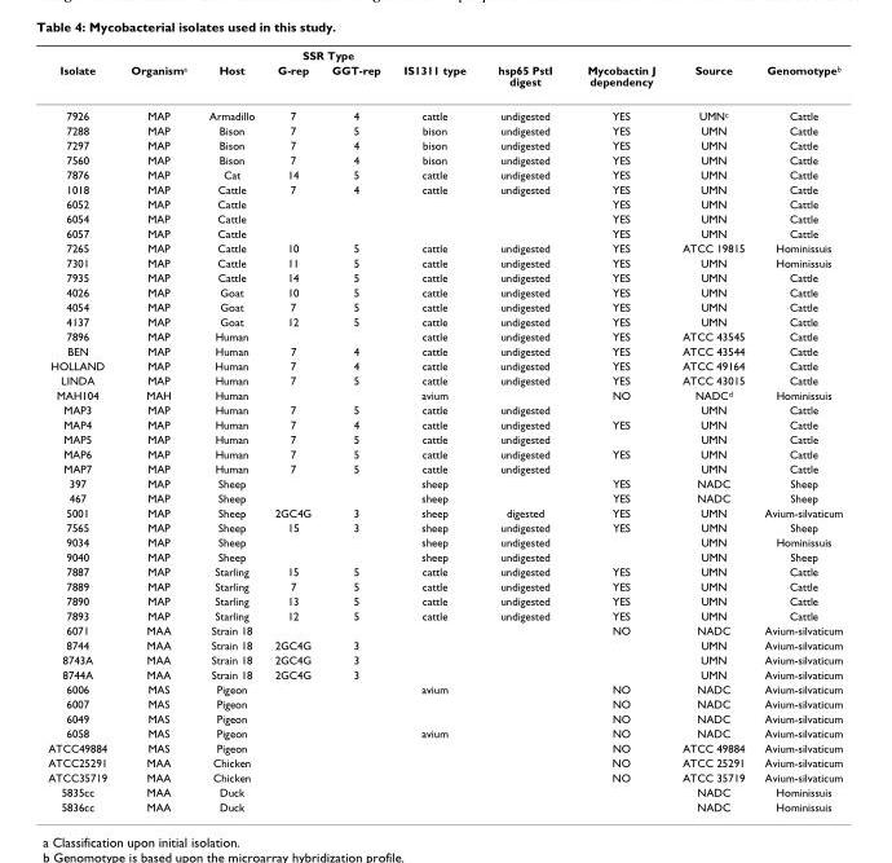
<table><thead><tr><td rowspan="2">Isolate</td><td rowspan="2">Organism<sup>a</sup></td><td rowspan="2">Host</td><td colspan="2">SSR Type</td><td rowspan="2">IS1311 type</td><td rowspan="2">hsp65 PstI digest</td><td rowspan="2">Mycobactin J dependency</td><td rowspan="2">Source</td><td rowspan="2">Genomotype<sup>b</sup></td></tr><tr><td>G-rep</td><td>GGT-rep</td></tr></thead><tbody><tr><td>7926</td><td>MAP</td><td>Armadillo</td><td>7</td><td>4</td><td>cattle</td><td>undigested</td><td>YES</td><td>UMN<sup>c</sup></td><td>Cattle</td></tr><tr><td>7288</td><td>MAP</td><td>Bison</td><td>7</td><td>5</td><td>bison</td><td>undigested</td><td>YES</td><td>UMN</td><td>Cattle</td></tr><tr><td>7297</td><td>MAP</td><td>Bison</td><td>7</td><td>4</td><td>bison</td><td>undigested</td><td>YES</td><td>UMN</td><td>Cattle</td></tr><tr><td>7560</td><td>MAP</td><td>Bison</td><td>7</td><td>4</td><td>bison</td><td>undigested</td><td>YES</td><td>UMN</td><td>Cattle</td></tr><tr><td>7876</td><td>MAP</td><td>Cat</td><td>14</td><td>5</td><td>cattle</td><td>undigested</td><td>YES</td><td>UMN</td><td>Cattle</td></tr><tr><td>1018</td><td>MAP</td><td>Cattle</td><td>7</td><td>4</td><td>cattle</td><td>undigested</td><td>YES</td><td>UMN</td><td>Cattle</td></tr><tr><td>6052</td><td>MAP</td><td>Cattle</td><td></td><td></td><td></td><td></td><td>YES</td><td>UMN</td><td>Cattle</td></tr><tr><td>6054</td><td>MAP</td><td>Cattle</td><td></td><td></td><td></td><td></td><td>YES</td><td>UMN</td><td>Cattle</td></tr><tr><td>6057</td><td>MAP</td><td>Cattle</td><td></td><td></td><td></td><td></td><td>YES</td><td>UMN</td><td>Cattle</td></tr><tr><td>7265</td><td>MAP</td><td>Cattle</td><td>10</td><td>5</td><td>cattle</td><td>undigested</td><td>YES</td><td>ATCC 19815</td><td>Hominissuis</td></tr><tr><td>7301</td><td>MAP</td><td>Cattle</td><td>11</td><td>5</td><td>cattle</td><td>undigested</td><td>YES</td><td>UMN</td><td>Hominissuis</td></tr><tr><td>7935</td><td>MAP</td><td>Cattle</td><td>14</td><td>5</td><td>cattle</td><td>undigested</td><td>YES</td><td>UMN</td><td>Cattle</td></tr><tr><td>4026</td><td>MAP</td><td>Goat</td><td>10</td><td>5</td><td>cattle</td><td>undigested</td><td>YES</td><td>UMN</td><td>Cattle</td></tr><tr><td>4054</td><td>MAP</td><td>Goat</td><td>7</td><td>5</td><td>cattle</td><td>undigested</td><td>YES</td><td>UMN</td><td>Cattle</td></tr><tr><td>4137</td><td>MAP</td><td>Goat</td><td>12</td><td>5</td><td>cattle</td><td>undigested</td><td>YES</td><td>UMN</td><td>Cattle</td></tr><tr><td>7896</td><td>MAP</td><td>Human</td><td></td><td></td><td>cattle</td><td>undigested</td><td>YES</td><td>ATCC 43545</td><td>Cattle</td></tr><tr><td>BEN</td><td>MAP</td><td>Human</td><td>7</td><td>4</td><td>cattle</td><td>undigested</td><td>YES</td><td>ATCC 43544</td><td>Cattle</td></tr><tr><td>HOLLAND</td><td>MAP</td><td>Human</td><td>7</td><td>4</td><td>cattle</td><td>undigested</td><td>YES</td><td>ATCC 49164</td><td>Cattle</td></tr><tr><td>LINDA</td><td>MAP</td><td>Human</td><td>7</td><td>5</td><td>cattle</td><td>undigested</td><td>YES</td><td>ATCC 43015</td><td>Cattle</td></tr><tr><td>MAH104</td><td>MAH</td><td>Human</td><td></td><td></td><td>avium</td><td></td><td>NO</td><td>NADC<sup>d</sup></td><td>Hominissuis</td></tr><tr><td>MAP3</td><td>MAP</td><td>Human</td><td>7</td><td>5</td><td>cattle</td><td>undigested</td><td></td><td>UMN</td><td>Cattle</td></tr><tr><td>MAP4</td><td>MAP</td><td>Human</td><td>7</td><td>4</td><td>cattle</td><td>undigested</td><td>YES</td><td>UMN</td><td>Cattle</td></tr><tr><td>MAP5</td><td>MAP</td><td>Human</td><td>7</td><td>5</td><td>cattle</td><td>undigested</td><td></td><td>UMN</td><td>Cattle</td></tr><tr><td>MAP6</td><td>MAP</td><td>Human</td><td>7</td><td>5</td><td>cattle</td><td>undigested</td><td>YES</td><td>UMN</td><td>Cattle</td></tr><tr><td>MAP7</td><td>MAP</td><td>Human</td><td>7</td><td>5</td><td>cattle</td><td>undigested</td><td></td><td>UMN</td><td>Cattle</td></tr><tr><td>397</td><td>MAP</td><td>Sheep</td><td></td><td></td><td>sheep</td><td></td><td>YES</td><td>NADC</td><td>Sheep</td></tr><tr><td>467</td><td>MAP</td><td>Sheep</td><td></td><td></td><td>sheep</td><td></td><td>YES</td><td>NADC</td><td>Sheep</td></tr><tr><td>5001</td><td>MAP</td><td>Sheep</td><td>2GC4G</td><td>3</td><td>sheep</td><td>digested</td><td>YES</td><td>UMN</td><td>Avium-silvaticum</td></tr><tr><td>7565</td><td>MAP</td><td>Sheep</td><td>15</td><td>3</td><td>sheep</td><td>undigested</td><td>YES</td><td>UMN</td><td>Sheep</td></tr><tr><td>9034</td><td>MAP</td><td>Sheep</td><td></td><td></td><td>sheep</td><td>undigested</td><td></td><td>UMN</td><td>Hominissuis</td></tr><tr><td>9040</td><td>MAP</td><td>Sheep</td><td></td><td></td><td>sheep</td><td>undigested</td><td></td><td>UMN</td><td>Sheep</td></tr><tr><td>7887</td><td>MAP</td><td>Starling</td><td>15</td><td>5</td><td>cattle</td><td>undigested</td><td>YES</td><td>UMN</td><td>Cattle</td></tr><tr><td>7889</td><td>MAP</td><td>Starling</td><td>7</td><td>5</td><td>cattle</td><td>undigested</td><td>YES</td><td>UMN</td><td>Cattle</td></tr><tr><td>7890</td><td>MAP</td><td>Starling</td><td>13</td><td>5</td><td>cattle</td><td>undigested</td><td>YES</td><td>UMN</td><td>Cattle</td></tr><tr><td>7893</td><td>MAP</td><td>Starling</td><td>12</td><td>5</td><td>cattle</td><td>undigested</td><td>YES</td><td>UMN</td><td>Cattle</td></tr><tr><td>6071</td><td>MAA</td><td>Strain 18</td><td></td><td></td><td></td><td></td><td>NO</td><td>NADC</td><td>Avium-silvaticum</td></tr><tr><td>8744</td><td>MAA</td><td>Strain 18</td><td>2GC4G</td><td>3</td><td></td><td></td><td></td><td>UMN</td><td>Avium-silvaticum</td></tr><tr><td>8743A</td><td>MAA</td><td>Strain 18</td><td>2GC4G</td><td>3</td><td></td><td></td><td></td><td>UMN</td><td>Avium-silvaticum</td></tr><tr><td>8744A</td><td>MAA</td><td>Strain 18</td><td>2GC4G</td><td>3</td><td></td><td></td><td></td><td>UMN</td><td>Avium-silvaticum</td></tr><tr><td>6006</td><td>MAS</td><td>Pigeon</td><td></td><td></td><td>avium</td><td></td><td>NO</td><td>NADC</td><td>Avium-silvaticum</td></tr><tr><td>6007</td><td>MAS</td><td>Pigeon</td><td></td><td></td><td></td><td></td><td>NO</td><td>NADC</td><td>Avium-silvaticum</td></tr><tr><td>6049</td><td>MAS</td><td>Pigeon</td><td></td><td></td><td></td><td></td><td>NO</td><td>NADC</td><td>Avium-silvaticum</td></tr><tr><td>6058</td><td>MAS</td><td>Pigeon</td><td></td><td></td><td>avium</td><td></td><td>NO</td><td>NADC</td><td>Avium-silvaticum</td></tr><tr><td>ATCC49884</td><td>MAS</td><td>Pigeon</td><td></td><td></td><td></td><td></td><td>NO</td><td>ATCC 49884</td><td>Avium-silvaticum</td></tr><tr><td>ATCC25291</td><td>MAA</td><td>Chicken</td><td></td><td></td><td></td><td></td><td>NO</td><td>ATCC 25291</td><td>Avium-silvaticum</td></tr><tr><td>ATCC35719</td><td>MAA</td><td>Chicken</td><td></td><td></td><td></td><td></td><td>NO</td><td>ATCC 35719</td><td>Avium-silvaticum</td></tr><tr><td>5835cc</td><td>MAA</td><td>Duck</td><td></td><td></td><td></td><td></td><td></td><td>NADC</td><td>Hominissuis</td></tr><tr><td>5836cc</td><td>MAA</td><td>Duck</td><td></td><td></td><td></td><td></td><td></td><td>NADC</td><td>Hominissuis</td></tr></tbody></table>